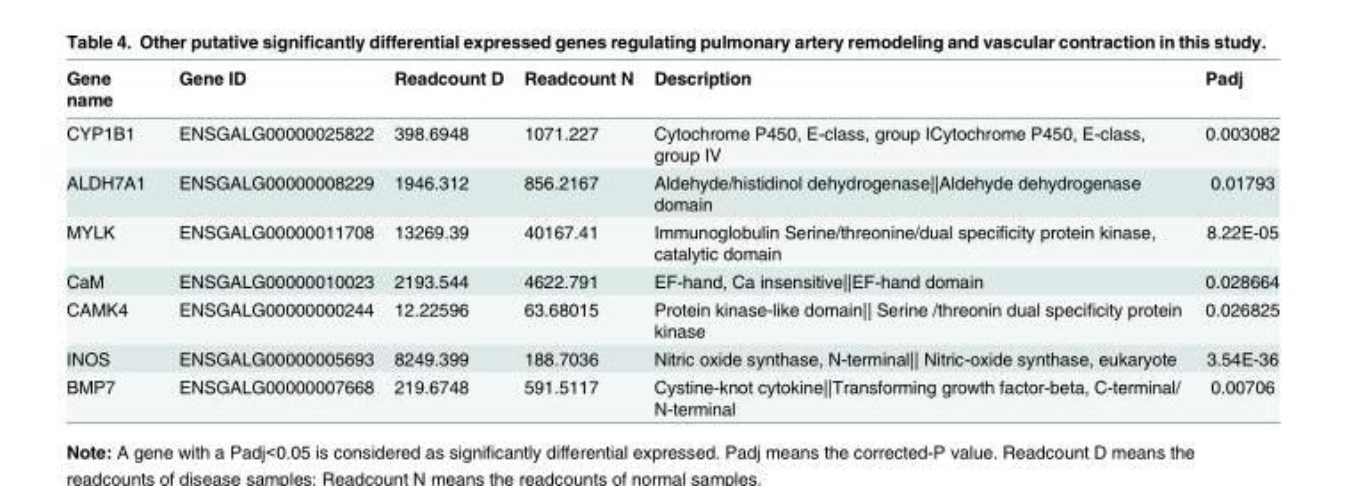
<table><thead><tr><td>Gene name</td><td>Gene ID</td><td>Readcount D</td><td>Readcount N</td><td>Description</td><td>Padj</td></tr></thead><tbody><tr><td>CYP1B1</td><td>ENSGALG00000025822</td><td>398.6948</td><td>1071.227</td><td>Cytochrome P450, E-class, group ICytochrome P450, E-class, group IV</td><td>0.003082</td></tr><tr><td>ALDH7A1</td><td>ENSGALG00000008229</td><td>1946.312</td><td>856.2167</td><td>Aldehyde/histidinol dehydrogenase||Aldehyde dehydrogenase domain</td><td>0.01793</td></tr><tr><td>MYLK</td><td>ENSGALG00000011708</td><td>13269.39</td><td>40167.41</td><td>Immunoglobulin Serine/threonine/dual specificity protein kinase, catalytic domain</td><td>8.22E-05</td></tr><tr><td>CaM</td><td>ENSGALG00000010023</td><td>2193.544</td><td>4622.791</td><td>EF-hand, Ca insensitive||EF-hand domain</td><td>0.028664</td></tr><tr><td>CAMK4</td><td>ENSGALG00000000244</td><td>12.22596</td><td>63.68015</td><td>Protein kinase-like domain|| Serine /threonin dual specificity protein kinase</td><td>0.026825</td></tr><tr><td>INOS</td><td>ENSGALG00000005693</td><td>8249.399</td><td>188.7036</td><td>Nitric oxide synthase, N-terminal|| Nitric-oxide synthase, eukaryote</td><td>3.54E-36</td></tr><tr><td>BMP7</td><td>ENSGALG00000007668</td><td>219.6748</td><td>591.5117</td><td>Cystine-knot cytokine||Transforming growth factor-beta, C-terminal/ N-terminal</td><td>0.00706</td></tr></tbody></table>